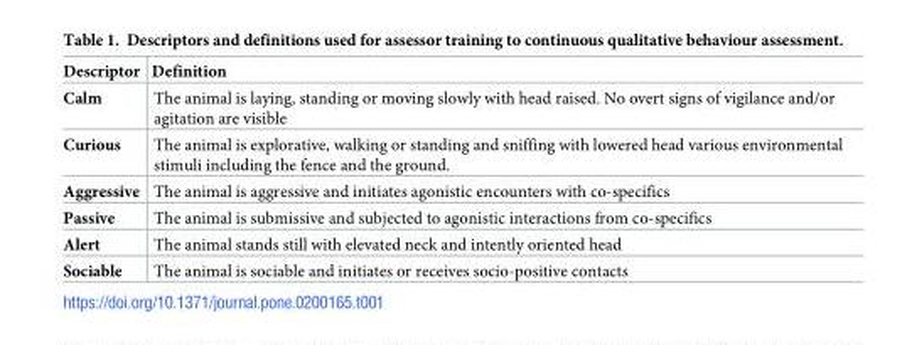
<table><thead><tr><td>Descriptor</td><td>Definition</td></tr></thead><tbody><tr><td>Calm</td><td>The animal is laying, standing or moving slowly with head raised. No overt signs of vigilance and/or agitation are visible</td></tr><tr><td>Curious</td><td>The animal is explorative, walking or standing and sniffing with lowered head various environmental stimuli including the fence and the ground.</td></tr><tr><td>Aggressive</td><td>The animal is aggressive and initiates agonistic encounters with co-specifics</td></tr><tr><td>Passive</td><td>The animal is submissive and subjected to agonistic interactions from co-specifics</td></tr><tr><td>Alert</td><td>The animal stands still with elevated neck and intently oriented head</td></tr><tr><td>Sociable</td><td>The animal is sociable and initiates or receives socio-positive contacts</td></tr></tbody></table>